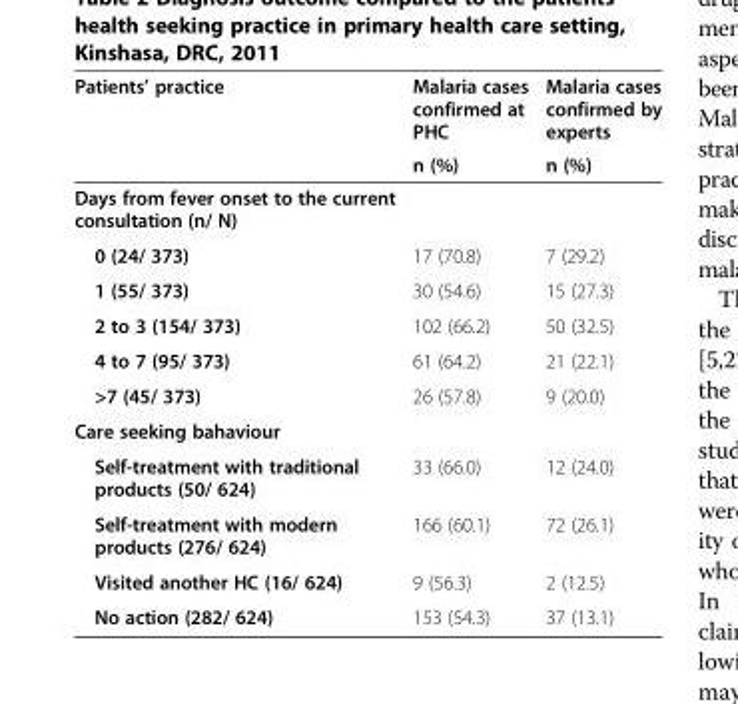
<table><thead><tr><td rowspan="2">Patients’ practice</td><td rowspan="2">Malaria cases confirmed at PHC n (%)</td><td rowspan="2">Malaria cases confirmed by experts n (%)</td></tr><tr></tr></thead><tbody><tr><td colspan="3">Days from fever onset to the current consultation (n/ N)</td></tr><tr><td>0 (24/ 373)</td><td>17 (70.8)</td><td>7 (29.2)</td></tr><tr><td>1 (55/ 373)</td><td>30 (54.6)</td><td>15 (27.3)</td></tr><tr><td>2 to 3 (154/ 373)</td><td>102 (66.2)</td><td>50 (32.5)</td></tr><tr><td>4 to 7 (95/ 373)</td><td>61 (64.2)</td><td>21 (22.1)</td></tr><tr><td>&gt;7 (45/ 373)</td><td>26 (57.8)</td><td>9 (20.0)</td></tr><tr><td colspan="3">Care seeking bahaviour</td></tr><tr><td>Self-treatment with traditional products (50/ 624)</td><td>33 (66.0)</td><td>12 (24.0)</td></tr><tr><td>Self-treatment with modern products (276/ 624)</td><td>166 (60.1)</td><td>72 (26.1)</td></tr><tr><td>Visited another HC (16/ 624)</td><td>9 (56.3)</td><td>2 (12.5)</td></tr><tr><td>No action (282/ 624)</td><td>153 (54.3)</td><td>37 (13.1)</td></tr></tbody></table>